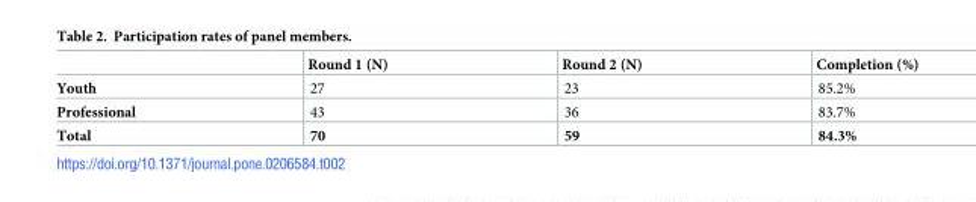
<table><thead><tr><td></td><td>Round 1 (N)</td><td>Round 2 (N)</td><td>Completion (%)</td></tr></thead><tbody><tr><td>Youth</td><td>27</td><td>23</td><td>85.2%</td></tr><tr><td>Professional</td><td>43</td><td>36</td><td>83.7%</td></tr><tr><td>Total</td><td>70</td><td>59</td><td>84.3%</td></tr></tbody></table>